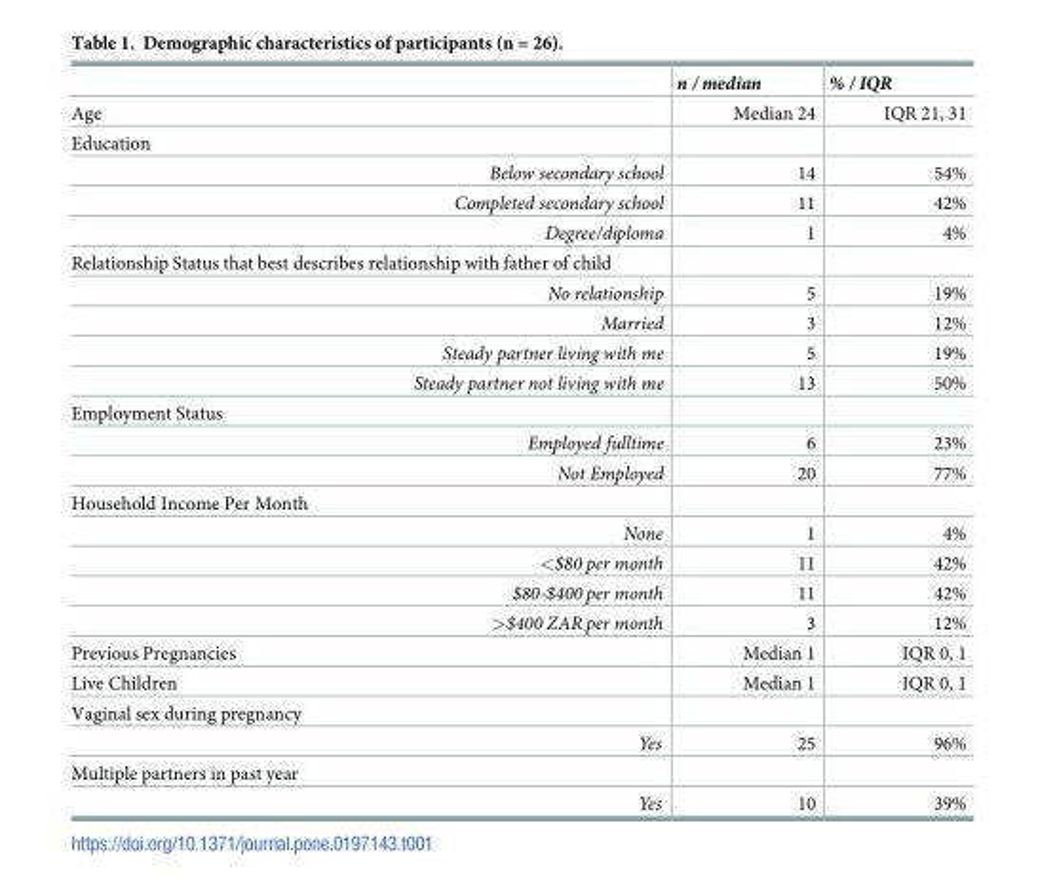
<table><thead><tr><td></td><td>n / median</td><td>% / IQR</td></tr></thead><tbody><tr><td>Age</td><td>Median 24</td><td>IQR 21, 31</td></tr><tr><td colspan="3">Education</td></tr><tr><td>Below secondary school</td><td>14</td><td>54%</td></tr><tr><td>Completed secondary school</td><td>11</td><td>42%</td></tr><tr><td>Degree/diploma</td><td>1</td><td>4%</td></tr><tr><td colspan="3">Relationship Status that best describes relationship with father of child</td></tr><tr><td>No relationship</td><td>5</td><td>19%</td></tr><tr><td>Married</td><td>3</td><td>12%</td></tr><tr><td>Steady partner living with me</td><td>5</td><td>19%</td></tr><tr><td>Steady partner not living with me</td><td>13</td><td>50%</td></tr><tr><td colspan="3">Employment Status</td></tr><tr><td>Employed fulltime</td><td>6</td><td>23%</td></tr><tr><td>Not Employed</td><td>20</td><td>77%</td></tr><tr><td colspan="3">Household Income Per Month</td></tr><tr><td>None</td><td>1</td><td>4%</td></tr><tr><td>&lt;$80 per month</td><td>11</td><td>42%</td></tr><tr><td>$80-$400 per month</td><td>11</td><td>42%</td></tr><tr><td>&gt;$400 ZAR per month</td><td>3</td><td>12%</td></tr><tr><td>Previous Pregnancies</td><td>Median 1</td><td>IQR 0, 1</td></tr><tr><td>Live Children</td><td>Median 1</td><td>IQR 0, 1</td></tr><tr><td colspan="3">Vaginal sex during pregnancy</td></tr><tr><td>Yes</td><td>25</td><td>96%</td></tr><tr><td colspan="3">Multiple partners in past year</td></tr><tr><td>Yes</td><td>10</td><td>39%</td></tr></tbody></table>